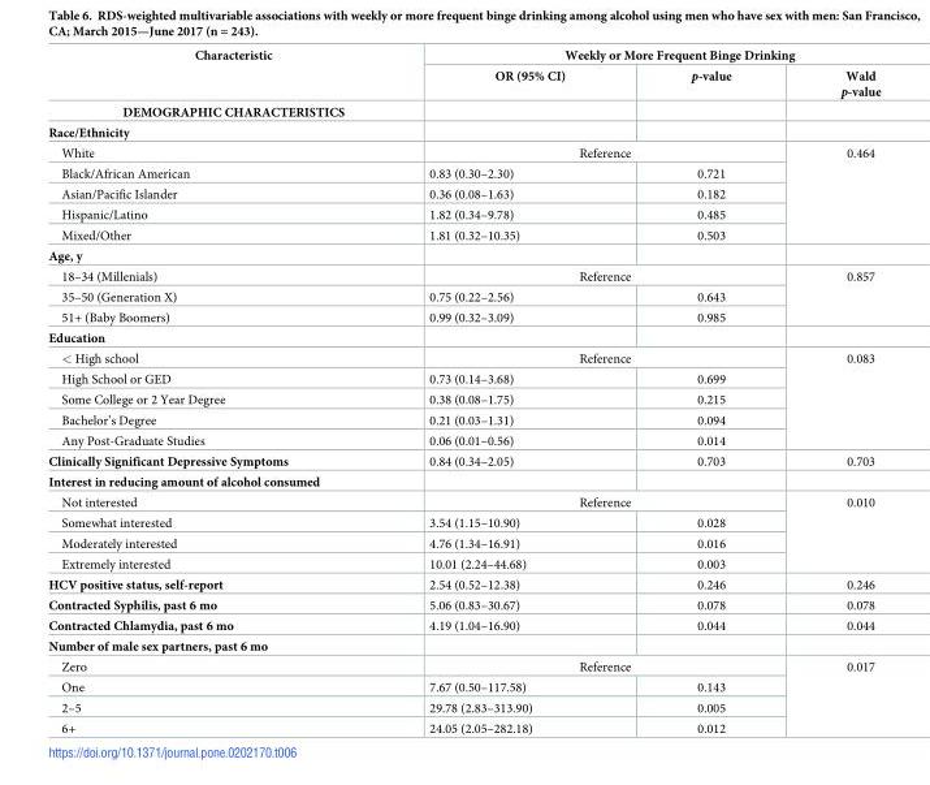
<table><thead><tr><td rowspan="3">Characteristic DEMOGRAPHIC CHARACTERISTICS</td><td colspan="3">Weekly or More Frequent Binge Drinking</td></tr><tr><td rowspan="2">OR (95% CI)</td><td rowspan="2">p-value</td><td rowspan="2">Wald p-value</td></tr><tr></tr></thead><tbody><tr><td colspan="4">Race/Ethnicity</td></tr><tr><td>White</td><td colspan="2">Reference</td><td rowspan="5">0.464</td></tr><tr><td>Black/African American</td><td>0.83 (0.30–2.30)</td><td>0.721</td></tr><tr><td>Asian/Pacific Islander</td><td>0.36 (0.08–1.63)</td><td>0.182</td></tr><tr><td>Hispanic/Latino</td><td>1.82 (0.34–9.78)</td><td>0.485</td></tr><tr><td>Mixed/Other</td><td>1.81 (0.32–10.35)</td><td>0.503</td></tr><tr><td colspan="4">Age, y</td></tr><tr><td>18–34 (Millenials)</td><td colspan="2">Reference</td><td rowspan="3">0.857</td></tr><tr><td>35–50 (Generation X)</td><td>0.75 (0.22–2.56)</td><td>0.643</td></tr><tr><td>51+ (Baby Boomers)</td><td>0.99 (0.32–3.09)</td><td>0.985</td></tr><tr><td colspan="4">Education</td></tr><tr><td>&lt; High school</td><td colspan="2">Reference</td><td rowspan="5">0.083</td></tr><tr><td>High School or GED</td><td>0.73 (0.14–3.68)</td><td>0.699</td></tr><tr><td>Some College or 2 Year Degree</td><td>0.38 (0.08–1.75)</td><td>0.215</td></tr><tr><td>Bachelor’s Degree</td><td>0.21 (0.03–1.31)</td><td>0.094</td></tr><tr><td>Any Post-Graduate Studies</td><td>0.06 (0.01–0.56)</td><td>0.014</td></tr><tr><td>Clinically Significant Depressive Symptoms</td><td>0.84 (0.34–2.05)</td><td>0.703</td><td>0.703</td></tr><tr><td colspan="4">Interest in reducing amount of alcohol consumed</td></tr><tr><td>Not interested</td><td colspan="2">Reference</td><td rowspan="4">0.010</td></tr><tr><td>Somewhat interested</td><td>3.54 (1.15–10.90)</td><td>0.028</td></tr><tr><td>Moderately interested</td><td>4.76 (1.34–16.91)</td><td>0.016</td></tr><tr><td>Extremely interested</td><td>10.01 (2.24–44.68)</td><td>0.003</td></tr><tr><td>HCV positive status, self-report</td><td>2.54 (0.52–12.38)</td><td>0.246</td><td>0.246</td></tr><tr><td>Contracted Syphilis, past 6 mo</td><td>5.06 (0.83–30.67)</td><td>0.078</td><td>0.078</td></tr><tr><td>Contracted Chlamydia, past 6 mo</td><td>4.19 (1.04–16.90)</td><td>0.044</td><td>0.044</td></tr><tr><td colspan="4">Number of male sex partners, past 6 mo</td></tr><tr><td>Zero</td><td colspan="2">Reference</td><td rowspan="4">0.017</td></tr><tr><td>One</td><td>7.67 (0.50–117.58)</td><td>0.143</td></tr><tr><td>2–5</td><td>29.78 (2.83–313.90)</td><td>0.005</td></tr><tr><td>6+</td><td>24.05 (2.05–282.18)</td><td>0.012</td></tr></tbody></table>